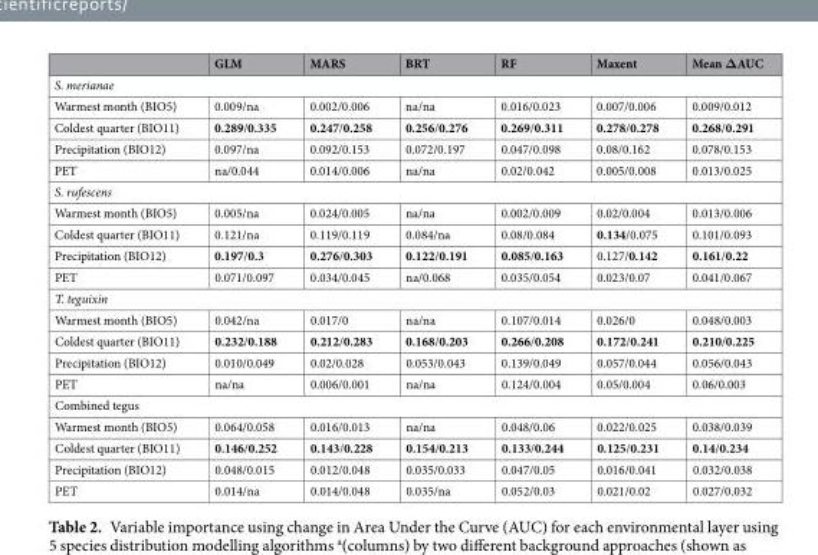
<table><thead><tr><td></td><td>GLM</td><td>MARS</td><td>BRT</td><td>RF</td><td>Maxent</td><td>Mean ΔAUC</td></tr></thead><tbody><tr><td colspan="7">S. merianae</td></tr><tr><td>Warmest month (BIO5)</td><td>0.009/na</td><td>0.002/0.006</td><td>na/na</td><td>0.016/0.023</td><td>0.007/0.006</td><td>0.009/0.012</td></tr><tr><td>Coldest quarter (BIO11)</td><td>0.289/0.335</td><td>0.247/0.258</td><td>0.256/0.276</td><td>0.269/0.311</td><td>0.278/0.278</td><td>0.268/0.291</td></tr><tr><td>Precipitation (BIO12)</td><td>0.097/na</td><td>0.092/0.153</td><td>0.072/0.197</td><td>0.047/0.098</td><td>0.08/0.162</td><td>0.078/0.153</td></tr><tr><td>PET</td><td>na/0.044</td><td>0.014/0.006</td><td>na/na</td><td>0.02/0.042</td><td>0.005/0.008</td><td>0.013/0.025</td></tr><tr><td colspan="7">S. rufescens</td></tr><tr><td>Warmest month (BIO5)</td><td>0.005/na</td><td>0.024/0.005</td><td>na/na</td><td>0.002/0.009</td><td>0.02/0.004</td><td>0.013/0.006</td></tr><tr><td>Coldest quarter (BIO11)</td><td>0.121/na</td><td>0.119/0.119</td><td>0.084/na</td><td>0.08/0.084</td><td>0.134/0.075</td><td>0.101/0.093</td></tr><tr><td>Precipitation (BIO12)</td><td>0.197/0.3</td><td>0.276/0.303</td><td>0.122/0.191</td><td>0.085/0.163</td><td>0.127/0.142</td><td>0.161/0.22</td></tr><tr><td>PET</td><td>0.071/0.097</td><td>0.034/0.045</td><td>na/0.068</td><td>0.035/0.054</td><td>0.023/0.07</td><td>0.041/0.067</td></tr><tr><td colspan="7">T. teguixin</td></tr><tr><td>Warmest month (BIO5)</td><td>0.042/na</td><td>0.017/0</td><td>na/na</td><td>0.107/0.014</td><td>0.026/0</td><td>0.048/0.003</td></tr><tr><td>Coldest quarter (BIO11)</td><td>0.232/0.188</td><td>0.212/0.283</td><td>0.168/0.203</td><td>0.266/0.208</td><td>0.172/0.241</td><td>0.210/0.225</td></tr><tr><td>Precipitation (BIO12)</td><td>0.010/0.049</td><td>0.02/0.028</td><td>0.053/0.043</td><td>0.139/0.049</td><td>0.057/0.044</td><td>0.056/0.043</td></tr><tr><td>PET</td><td>na/na</td><td>0.006/0.001</td><td>na/na</td><td>0.124/0.004</td><td>0.05/0.004</td><td>0.06/0.003</td></tr><tr><td colspan="7">Combined tegus</td></tr><tr><td>Warmest month (BIO5)</td><td>0.064/0.058</td><td>0.016/0.013</td><td>na/na</td><td>0.048/0.06</td><td>0.022/0.025</td><td>0.038/0.039</td></tr><tr><td>Coldest quarter (BIO11)</td><td>0.146/0.252</td><td>0.143/0.228</td><td>0.154/0.213</td><td>0.133/0.244</td><td>0.125/0.231</td><td>0.14/0.234</td></tr><tr><td>Precipitation (BIO12)</td><td>0.048/0.015</td><td>0.012/0.048</td><td>0.035/0.033</td><td>0.047/0.05</td><td>0.016/0.041</td><td>0.032/0.038</td></tr><tr><td>PET</td><td>0.014/na</td><td>0.014/0.048</td><td>0.035/na</td><td>0.052/0.03</td><td>0.021/0.02</td><td>0.027/0.032</td></tr></tbody></table>